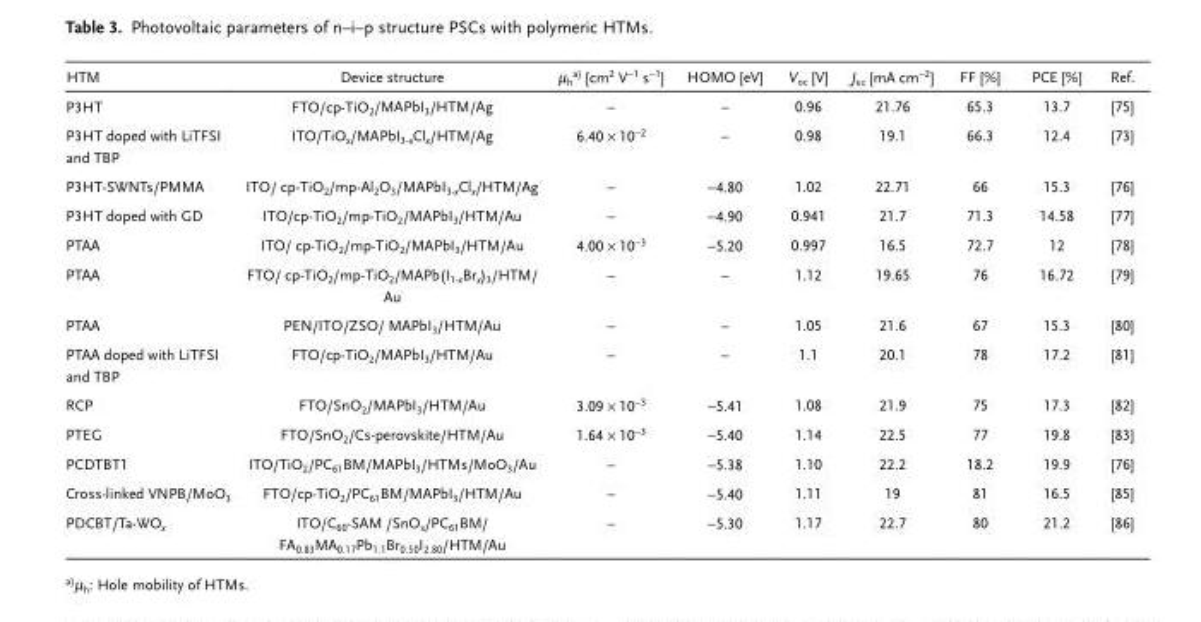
<table><thead><tr><td>HTM</td><td>Device structure</td><td>µ<sub>h</sub>a) [cm<sup>2</sup> V<sup>−1</sup> s<sup>−1</sup>]</td><td>HOMO [eV]</td><td>V<sub>oc</sub> [V]</td><td>J<sub>sc</sub> [mA cm<sup>−2</sup>]</td><td>FF [%]</td><td>PCE [%]</td><td>Ref.</td></tr></thead><tbody><tr><td>P3HT</td><td>FTO/cp-TiO<sub>2</sub>/MAPbI<sub>3</sub>/HTM/Ag</td><td>–</td><td>–</td><td>0.96</td><td>21.76</td><td>65.3</td><td>13.7</td><td>[75]</td></tr><tr><td>P3HT doped with LiTFSI and TBP</td><td>ITO/TiO<sub>x</sub>/MAPbI<sub>3-x</sub>Cl<sub>x</sub>/HTM/Ag</td><td>6.40 × 10<sup>−2</sup></td><td>–</td><td>0.98</td><td>19.1</td><td>66.3</td><td>12.4</td><td>[73]</td></tr><tr><td>P3HT-SWNTs/PMMA</td><td>ITO/ cp-TiO<sub>2</sub>/mp-Al<sub>2</sub>O<sub>3</sub>/MAPbI<sub>3-x</sub>Cl<sub>x</sub>/HTM/Ag</td><td>–</td><td>−4.80</td><td>1.02</td><td>22.71</td><td>66</td><td>15.3</td><td>[76]</td></tr><tr><td>P3HT doped with GD</td><td>ITO/cp-TiO<sub>2</sub>/mp-TiO<sub>2</sub>/MAPbI<sub>3</sub>/HTM/Au</td><td>–</td><td>−4.90</td><td>0.941</td><td>21.7</td><td>71.3</td><td>14.58</td><td>[77]</td></tr><tr><td>PTAA</td><td>ITO/ cp-TiO<sub>2</sub>/mp-TiO<sub>2</sub>/MAPbI<sub>3</sub>/HTM/Au</td><td>4.00 × 10<sup>−3</sup></td><td>−5.20</td><td>0.997</td><td>16.5</td><td>72.7</td><td>12</td><td>[78]</td></tr><tr><td>PTAA</td><td>FTO/ cp-TiO<sub>2</sub>/mp-TiO<sub>2</sub>/MAPb(I<sub>1-x</sub>Br<sub>x</sub>)<sub>3</sub>/HTM/ Au</td><td>–</td><td>–</td><td>1.12</td><td>19.65</td><td>76</td><td>16.72</td><td>[79]</td></tr><tr><td>PTAA</td><td>PEN/ITO/ZSO/ MAPbI<sub>3</sub>/HTM/Au</td><td>–</td><td>–</td><td>1.05</td><td>21.6</td><td>67</td><td>15.3</td><td>[80]</td></tr><tr><td>PTAA doped with LiTFSI and TBP</td><td>FTO/cp-TiO<sub>2</sub>/MAPbI<sub>3</sub>/HTM/Au</td><td>–</td><td>–</td><td>1.1</td><td>20.1</td><td>78</td><td>17.2</td><td>[81]</td></tr><tr><td>RCP</td><td>FTO/SnO<sub>2</sub>/MAPbI<sub>3</sub>/HTM/Au</td><td>3.09 × 10<sup>−3</sup></td><td>−5.41</td><td>1.08</td><td>21.9</td><td>75</td><td>17.3</td><td>[82]</td></tr><tr><td>PTEG</td><td>FTO/SnO<sub>2</sub>/Cs-perovskite/HTM/Au</td><td>1.64 × 10<sup>−3</sup></td><td>−5.40</td><td>1.14</td><td>22.5</td><td>77</td><td>19.8</td><td>[83]</td></tr><tr><td>PCDTBT1</td><td>ITO/TiO<sub>2</sub>/PC<sub>61</sub>BM/MAPbI<sub>3</sub>/HTMs/MoO<sub>3</sub>/Au</td><td>–</td><td>−5.38</td><td>1.10</td><td>22.2</td><td>18.2</td><td>19.9</td><td>[76]</td></tr><tr><td>Cross-linked VNPB/MoO<sub>3</sub></td><td>FTO/cp-TiO<sub>2</sub>/PC<sub>61</sub>BM/MAPbI<sub>3</sub>/HTM/Au</td><td>–</td><td>−5.40</td><td>1.11</td><td>19</td><td>81</td><td>16.5</td><td>[85]</td></tr><tr><td>PDCBT/Ta-WO<sub>x</sub></td><td>ITO/C<sub>60</sub>-SAM /SnO<sub>x</sub>/PC<sub>61</sub>BM/ FA<sub>0.83</sub>MA<sub>0.17</sub>Pb<sub>1.1</sub>Br<sub>0.50</sub>I<sub>2.80</sub>/HTM/Au</td><td>–</td><td>−5.30</td><td>1.17</td><td>22.7</td><td>80</td><td>21.2</td><td>[86]</td></tr></tbody></table>